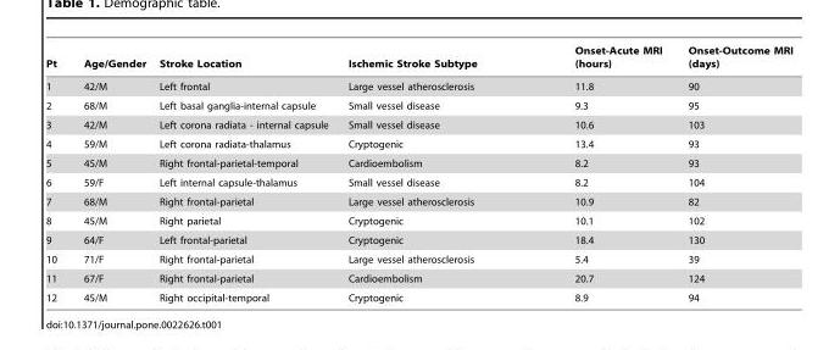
<table><thead><tr><td>Pt</td><td>Age/Gender</td><td>Stroke Location</td><td>Ischemic Stroke Subtype</td><td>Onset-Acute MRI (hours)</td><td>Onset-Outcome MRI (days)</td></tr></thead><tbody><tr><td>1</td><td>42/M</td><td>Left frontal</td><td>Large vessel atherosclerosis</td><td>11.8</td><td>90</td></tr><tr><td>2</td><td>68/M</td><td>Left basal ganglia-internal capsule</td><td>Small vessel disease</td><td>9.3</td><td>95</td></tr><tr><td>3</td><td>42/M</td><td>Left corona radiata - internal capsule</td><td>Small vessel disease</td><td>10.6</td><td>103</td></tr><tr><td>4</td><td>59/M</td><td>Left corona radiata-thalamus</td><td>Cryptogenic</td><td>13.4</td><td>93</td></tr><tr><td>5</td><td>45/M</td><td>Right frontal-parietal-temporal</td><td>Cardioembolism</td><td>8.2</td><td>93</td></tr><tr><td>6</td><td>59/F</td><td>Left internal capsule-thalamus</td><td>Small vessel disease</td><td>8.2</td><td>104</td></tr><tr><td>7</td><td>68/M</td><td>Right frontal-parietal</td><td>Large vessel atherosclerosis</td><td>10.9</td><td>82</td></tr><tr><td>8</td><td>45/M</td><td>Right parietal</td><td>Cryptogenic</td><td>10.1</td><td>102</td></tr><tr><td>9</td><td>64/F</td><td>Left frontal-parietal</td><td>Cryptogenic</td><td>18.4</td><td>130</td></tr><tr><td>10</td><td>71/F</td><td>Right frontal-parietal</td><td>Large vessel atherosclerosis</td><td>5.4</td><td>39</td></tr><tr><td>11</td><td>67/F</td><td>Right frontal-parietal</td><td>Cardioembolism</td><td>20.7</td><td>124</td></tr><tr><td>12</td><td>45/M</td><td>Right occipital-temporal</td><td>Cryptogenic</td><td>8.9</td><td>94</td></tr></tbody></table>